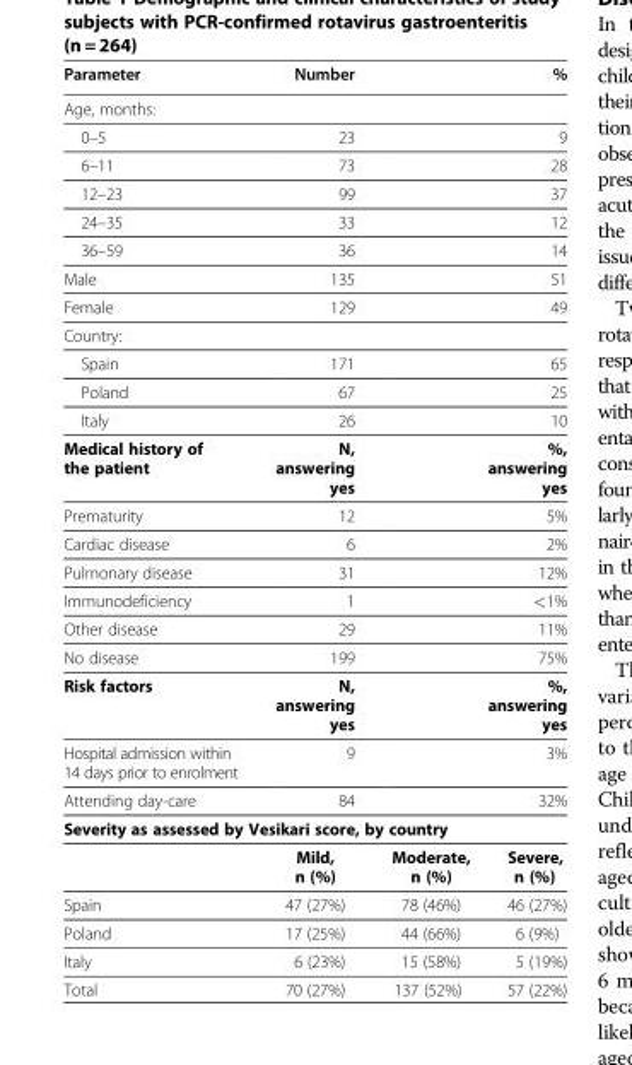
<table><thead><tr><td>Parameter</td><td>Number</td><td colspan="2">%</td></tr></thead><tbody><tr><td colspan="4">Age, months:</td></tr><tr><td>0–5</td><td>23</td><td colspan="2">9</td></tr><tr><td>6–11</td><td>73</td><td colspan="2">28</td></tr><tr><td>12–23</td><td>99</td><td colspan="2">37</td></tr><tr><td>24–35</td><td>33</td><td colspan="2">12</td></tr><tr><td>36–59</td><td>36</td><td colspan="2">14</td></tr><tr><td>Male</td><td>135</td><td colspan="2">51</td></tr><tr><td>Female</td><td>129</td><td colspan="2">49</td></tr><tr><td colspan="4">Country:</td></tr><tr><td>Spain</td><td>171</td><td colspan="2">65</td></tr><tr><td>Poland</td><td>67</td><td colspan="2">25</td></tr><tr><td>Italy</td><td>26</td><td colspan="2">10</td></tr><tr><td>Medical history of the patient</td><td>N, answering yes</td><td colspan="2">%, answering yes</td></tr><tr><td>Prematurity</td><td>12</td><td colspan="2">5%</td></tr><tr><td>Cardiac disease</td><td>6</td><td colspan="2">2%</td></tr><tr><td>Pulmonary disease</td><td>31</td><td colspan="2">12%</td></tr><tr><td>Immunodeficiency</td><td>1</td><td colspan="2">&lt;1%</td></tr><tr><td>Other disease</td><td>29</td><td colspan="2">11%</td></tr><tr><td>No disease</td><td>199</td><td colspan="2">75%</td></tr><tr><td>Risk factors</td><td>N, answering yes</td><td colspan="2">%, answering yes</td></tr><tr><td>Hospital admission within 14 days prior to enrolment</td><td>9</td><td colspan="2">3%</td></tr><tr><td>Attending day-care</td><td>84</td><td colspan="2">32%</td></tr><tr><td colspan="4">Severity as assessed by Vesikari score, by country</td></tr><tr><td></td><td>Mild, n (%)</td><td>Moderate, n (%)</td><td>Severe, n (%)</td></tr><tr><td>Spain</td><td>47 (27%)</td><td>78 (46%)</td><td>46 (27%)</td></tr><tr><td>Poland</td><td>17 (25%)</td><td>44 (66%)</td><td>6 (9%)</td></tr><tr><td>Italy</td><td>6 (23%)</td><td>15 (58%)</td><td>5 (19%)</td></tr><tr><td>Total</td><td>70 (27%)</td><td>137 (52%)</td><td>57 (22%)</td></tr></tbody></table>